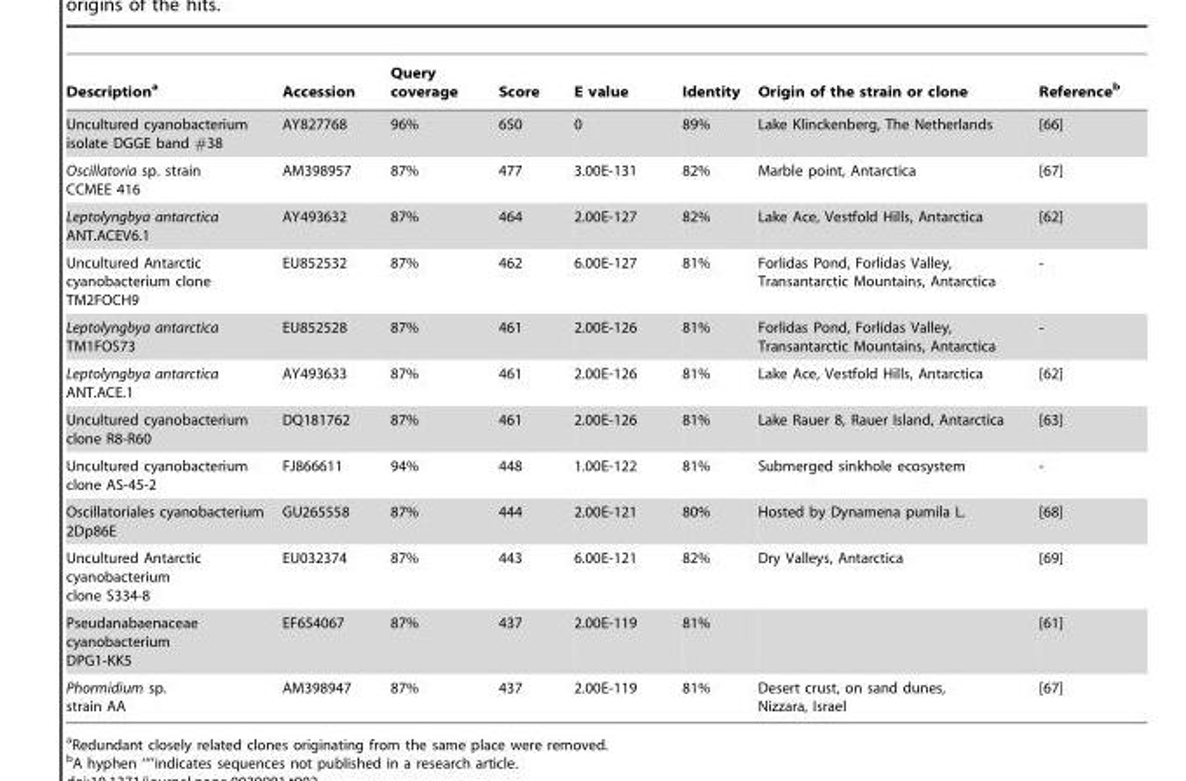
<table><thead><tr><td>Description<sup>a</sup></td><td>Accession</td><td>Query coverage</td><td>Score</td><td>E value</td><td>Identity</td><td>Origin of the strain or clone</td><td>Reference<sup>b</sup></td></tr></thead><tbody><tr><td>Uncultured cyanobacterium isolate DGGE band #38</td><td>AY827768</td><td>96%</td><td>650</td><td>0</td><td>89%</td><td>Lake Klinckenberg, The Netherlands</td><td>[66]</td></tr><tr><td>Oscillatoria sp. strain CCMEE 416</td><td>AM398957</td><td>87%</td><td>477</td><td>3.00E-131</td><td>82%</td><td>Marble point, Antarctica</td><td>[67]</td></tr><tr><td>Leptolyngbya antarctica ANT.ACEV6.1</td><td>AY493632</td><td>87%</td><td>464</td><td>2.00E-127</td><td>82%</td><td>Lake Ace, Vestfold Hills, Antarctica</td><td>[62]</td></tr><tr><td>Uncultured Antarctic cyanobacterium clone TM2FOCH9</td><td>EU852532</td><td>87%</td><td>462</td><td>6.00E-127</td><td>81%</td><td>Forlidas Pond, Forlidas Valley, Transantarctic Mountains, Antarctica</td><td>-</td></tr><tr><td>Leptolyngbya antarctica TM1FOS73</td><td>EU852528</td><td>87%</td><td>461</td><td>2.00E-126</td><td>81%</td><td>Forlidas Pond, Forlidas Valley, Transantarctic Mountains, Antarctica</td><td>-</td></tr><tr><td>Leptolyngbya antarctica ANT.ACE.1</td><td>AY493633</td><td>87%</td><td>461</td><td>2.00E-126</td><td>81%</td><td>Lake Ace, Vestfold Hills, Antarctica</td><td>[62]</td></tr><tr><td>Uncultured cyanobacterium clone R8-R60</td><td>DQ181762</td><td>87%</td><td>461</td><td>2.00E-126</td><td>81%</td><td>Lake Rauer 8, Rauer Island, Antarctica</td><td>[63]</td></tr><tr><td>Uncultured cyanobacterium clone AS-45-2</td><td>FJ866611</td><td>94%</td><td>448</td><td>1.00E-122</td><td>81%</td><td>Submerged sinkhole ecosystem</td><td>-</td></tr><tr><td>Oscillatoriales cyanobacterium 2Dp86E</td><td>GU265558</td><td>87%</td><td>444</td><td>2.00E-121</td><td>80%</td><td>Hosted by Dynamena pumila L.</td><td>[68]</td></tr><tr><td>Uncultured Antarctic cyanobacterium clone S334-8</td><td>EU032374</td><td>87%</td><td>443</td><td>6.00E-121</td><td>82%</td><td>Dry Valleys, Antarctica</td><td>[69]</td></tr><tr><td>Pseudanabaenaceae cyanobacterium DPG1-KK5</td><td>EF654067</td><td>87%</td><td>437</td><td>2.00E-119</td><td>81%</td><td></td><td>[61]</td></tr><tr><td>Phormidium sp. strain AA</td><td>AM398947</td><td>87%</td><td>437</td><td>2.00E-119</td><td>81%</td><td>Desert crust, on sand dunes, Nizzara, Israel</td><td>[67]</td></tr></tbody></table>